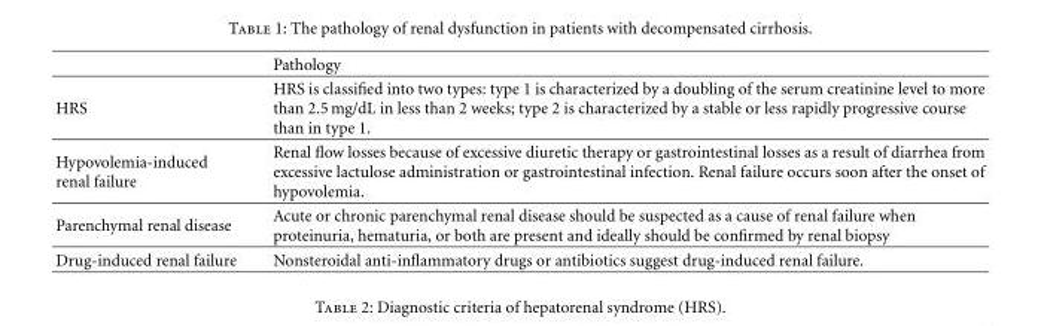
<table><thead><tr><td></td><td>Pathology</td></tr></thead><tbody><tr><td>HRS</td><td>HRS is classified into two types: type 1 is characterized by a doubling of the serum creatinine level to more than 2.5 mg/dL in less than 2 weeks; type 2 is characterized by a stable or less rapidly progressive course than in type 1.</td></tr><tr><td>Hypovolemia-induced renal failure</td><td>Renal flow losses because of excessive diuretic therapy or gastrointestinal losses as a result of diarrhea from excessive lactulose administration or gastrointestinal infection. Renal failure occurs soon after the onset of hypovolemia.</td></tr><tr><td>Parenchymal renal disease</td><td>Acute or chronic parenchymal renal disease should be suspected as a cause of renal failure when proteinuria, hematuria, or both are present and ideally should be confirmed by renal biopsy</td></tr><tr><td>Drug-induced renal failure</td><td>Nonsteroidal anti-inflammatory drugs or antibiotics suggest drug-induced renal failure.</td></tr></tbody></table>